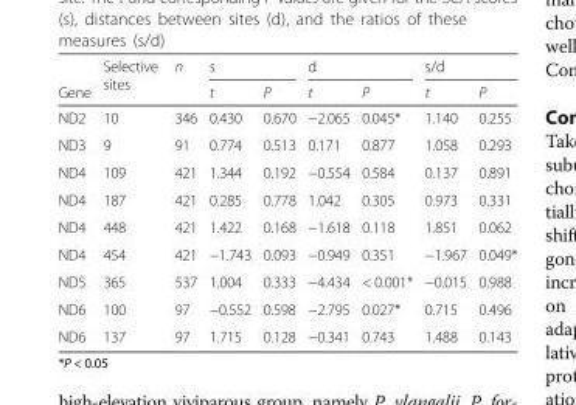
<table><thead><tr><td rowspan="2">Gene</td><td rowspan="2">Selective sites</td><td rowspan="2">n</td><td colspan="2">s</td><td colspan="2">d</td><td colspan="2">s/d</td></tr><tr><td>t</td><td>P</td><td>t</td><td>P</td><td>t</td><td>P</td></tr></thead><tbody><tr><td>ND2</td><td>10</td><td>346</td><td>0.430</td><td>0.670</td><td>−2.065</td><td>0.045*</td><td>1.140</td><td>0.255</td></tr><tr><td>ND3</td><td>9</td><td>91</td><td>0.774</td><td>0.513</td><td>0.171</td><td>0.877</td><td>1.058</td><td>0.293</td></tr><tr><td>ND4</td><td>109</td><td>421</td><td>1.344</td><td>0.192</td><td>−0.554</td><td>0.584</td><td>0.137</td><td>0.891</td></tr><tr><td>ND4</td><td>187</td><td>421</td><td>0.285</td><td>0.778</td><td>1.042</td><td>0.305</td><td>0.973</td><td>0.331</td></tr><tr><td>ND4</td><td>448</td><td>421</td><td>1.422</td><td>0.168</td><td>−1.618</td><td>0.118</td><td>1.851</td><td>0.062</td></tr><tr><td>ND4</td><td>454</td><td>421</td><td>−1.743</td><td>0.093</td><td>−0.949</td><td>0.351</td><td>−1.967</td><td>0.049*</td></tr><tr><td>ND5</td><td>365</td><td>537</td><td>1.004</td><td>0.333</td><td>−4.434</td><td>&lt; 0.001*</td><td>−0.015</td><td>0.988</td></tr><tr><td>ND6</td><td>100</td><td>97</td><td>−0.552</td><td>0.598</td><td>−2.795</td><td>0.027*</td><td>0.715</td><td>0.496</td></tr><tr><td>ND6</td><td>137</td><td>97</td><td>1.715</td><td>0.128</td><td>−0.341</td><td>0.743</td><td>1.488</td><td>0.143</td></tr></tbody></table>